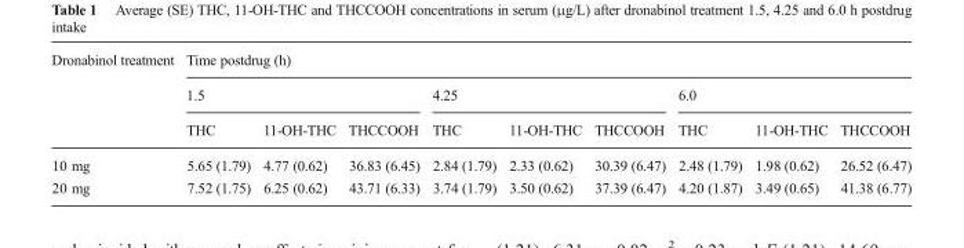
<table><thead><tr><td rowspan="3">Dronabinol treatment</td><td colspan="9">Time postdrug (h)</td></tr><tr><td colspan="3">1.5</td><td colspan="3">4.25</td><td colspan="3">6.0</td></tr><tr><td>THC</td><td>11-OH-THC</td><td>THCCOOH</td><td>THC</td><td>11-OH-THC</td><td>THCCOOH</td><td>THC</td><td>11-OH-THC</td><td>THCCOOH</td></tr></thead><tbody><tr><td>10 mg</td><td>5.65 (1.79)</td><td>4.77 (0.62)</td><td>36.83 (6.45)</td><td>2.84 (1.79)</td><td>2.33 (0.62)</td><td>30.39 (6.47)</td><td>2.48 (1.79)</td><td>1.98 (0.62)</td><td>26.52 (6.47)</td></tr><tr><td>20 mg</td><td>7.52 (1.75)</td><td>6.25 (0.62)</td><td>43.71 (6.33)</td><td>3.74 (1.79)</td><td>3.50 (0.62)</td><td>37.39 (6.47)</td><td>4.20 (1.87)</td><td>3.49 (0.65)</td><td>41.38 (6.77)</td></tr></tbody></table>